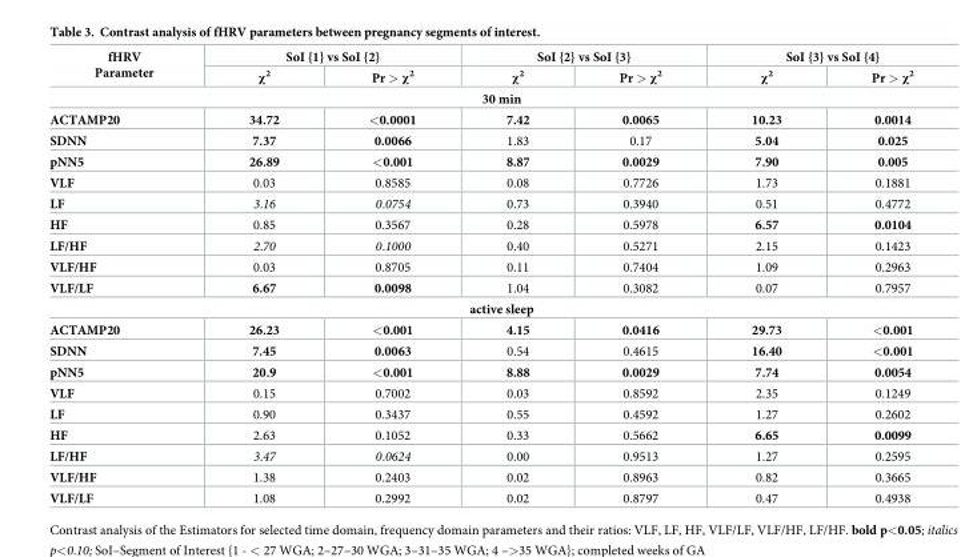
<table><thead><tr><td rowspan="2">fHRV Parameter</td><td colspan="2">SoI {1} vs SoI {2}</td><td colspan="2">SoI {2} vs SoI {3}</td><td colspan="2">SoI {3} vs SoI {4}</td></tr><tr><td>χ<sup>2</sup></td><td>Pr &gt; χ<sup>2</sup></td><td>χ<sup>2</sup></td><td>Pr &gt; χ<sup>2</sup></td><td>χ<sup>2</sup></td><td>Pr &gt; χ<sup>2</sup></td></tr></thead><tbody><tr><td colspan="7">30 min</td></tr><tr><td>ACTAMP20</td><td>34.72</td><td>&lt;0.0001</td><td>7.42</td><td>0.0065</td><td>10.23</td><td>0.0014</td></tr><tr><td>SDNN</td><td>7.37</td><td>0.0066</td><td>1.83</td><td>0.17</td><td>5.04</td><td>0.025</td></tr><tr><td>pNN5</td><td>26.89</td><td>&lt;0.001</td><td>8.87</td><td>0.0029</td><td>7.90</td><td>0.005</td></tr><tr><td>VLF</td><td>0.03</td><td>0.8585</td><td>0.08</td><td>0.7726</td><td>1.73</td><td>0.1881</td></tr><tr><td>LF</td><td>3.16</td><td>0.0754</td><td>0.73</td><td>0.3940</td><td>0.51</td><td>0.4772</td></tr><tr><td>HF</td><td>0.85</td><td>0.3567</td><td>0.28</td><td>0.5978</td><td>6.57</td><td>0.0104</td></tr><tr><td>LF/HF</td><td>2.70</td><td>0.1000</td><td>0.40</td><td>0.5271</td><td>2.15</td><td>0.1423</td></tr><tr><td>VLF/HF</td><td>0.03</td><td>0.8705</td><td>0.11</td><td>0.7404</td><td>1.09</td><td>0.2963</td></tr><tr><td>VLF/LF</td><td>6.67</td><td>0.0098</td><td>1.04</td><td>0.3082</td><td>0.07</td><td>0.7957</td></tr><tr><td colspan="7">active sleep</td></tr><tr><td>ACTAMP20</td><td>26.23</td><td>&lt;0.001</td><td>4.15</td><td>0.0416</td><td>29.73</td><td>&lt;0.001</td></tr><tr><td>SDNN</td><td>7.45</td><td>0.0063</td><td>0.54</td><td>0.4615</td><td>16.40</td><td>&lt;0.001</td></tr><tr><td>pNN5</td><td>20.9</td><td>&lt;0.001</td><td>8.88</td><td>0.0029</td><td>7.74</td><td>0.0054</td></tr><tr><td>VLF</td><td>0.15</td><td>0.7002</td><td>0.03</td><td>0.8592</td><td>2.35</td><td>0.1249</td></tr><tr><td>LF</td><td>0.90</td><td>0.3437</td><td>0.55</td><td>0.4592</td><td>1.27</td><td>0.2602</td></tr><tr><td>HF</td><td>2.63</td><td>0.1052</td><td>0.33</td><td>0.5662</td><td>6.65</td><td>0.0099</td></tr><tr><td>LF/HF</td><td>3.47</td><td>0.0624</td><td>0.00</td><td>0.9513</td><td>1.27</td><td>0.2595</td></tr><tr><td>VLF/HF</td><td>1.38</td><td>0.2403</td><td>0.02</td><td>0.8963</td><td>0.82</td><td>0.3665</td></tr><tr><td>VLF/LF</td><td>1.08</td><td>0.2992</td><td>0.02</td><td>0.8797</td><td>0.47</td><td>0.4938</td></tr></tbody></table>